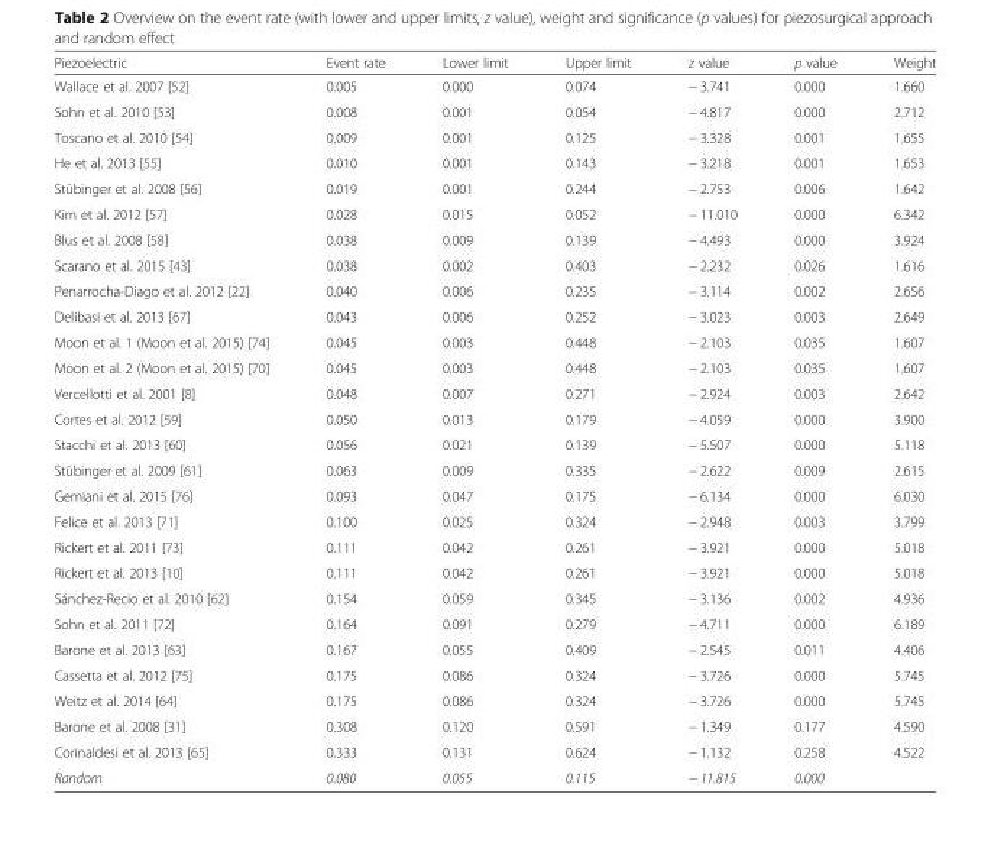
<table><thead><tr><td>Piezoelectric</td><td>Event rate</td><td>Lower limit</td><td>Upper limit</td><td>z value</td><td>p value</td><td>Weight</td></tr></thead><tbody><tr><td>Wallace et al. 2007 [52]</td><td>0.005</td><td>0.000</td><td>0.074</td><td>− 3.741</td><td>0.000</td><td>1.660</td></tr><tr><td>Sohn et al. 2010 [53]</td><td>0.008</td><td>0.001</td><td>0.054</td><td>− 4.817</td><td>0.000</td><td>2.712</td></tr><tr><td>Toscano et al. 2010 [54]</td><td>0.009</td><td>0.001</td><td>0.125</td><td>− 3.328</td><td>0.001</td><td>1.655</td></tr><tr><td>He et al. 2013 [55]</td><td>0.010</td><td>0.001</td><td>0.143</td><td>− 3.218</td><td>0.001</td><td>1.653</td></tr><tr><td>Stübinger et al. 2008 [56]</td><td>0.019</td><td>0.001</td><td>0.244</td><td>− 2.753</td><td>0.006</td><td>1.642</td></tr><tr><td>Kim et al. 2012 [57]</td><td>0.028</td><td>0.015</td><td>0.052</td><td>− 11.010</td><td>0.000</td><td>6.342</td></tr><tr><td>Blus et al. 2008 [58]</td><td>0.038</td><td>0.009</td><td>0.139</td><td>− 4.493</td><td>0.000</td><td>3.924</td></tr><tr><td>Scarano et al. 2015 [43]</td><td>0.038</td><td>0.002</td><td>0.403</td><td>− 2.232</td><td>0.026</td><td>1.616</td></tr><tr><td>Penarrocha-Diago et al. 2012 [22]</td><td>0.040</td><td>0.006</td><td>0.235</td><td>− 3.114</td><td>0.002</td><td>2.656</td></tr><tr><td>Delibasi et al. 2013 [67]</td><td>0.043</td><td>0.006</td><td>0.252</td><td>− 3.023</td><td>0.003</td><td>2.649</td></tr><tr><td>Moon et al. 1 (Moon et al. 2015) [74]</td><td>0.045</td><td>0.003</td><td>0.448</td><td>− 2.103</td><td>0.035</td><td>1.607</td></tr><tr><td>Moon et al. 2 (Moon et al. 2015) [70]</td><td>0.045</td><td>0.003</td><td>0.448</td><td>− 2.103</td><td>0.035</td><td>1.607</td></tr><tr><td>Vercellotti et al. 2001 [8]</td><td>0.048</td><td>0.007</td><td>0.271</td><td>− 2.924</td><td>0.003</td><td>2.642</td></tr><tr><td>Cortes et al. 2012 [59]</td><td>0.050</td><td>0.013</td><td>0.179</td><td>− 4.059</td><td>0.000</td><td>3.900</td></tr><tr><td>Stacchi et al. 2013 [60]</td><td>0.056</td><td>0.021</td><td>0.139</td><td>− 5.507</td><td>0.000</td><td>5.118</td></tr><tr><td>Stübinger et al. 2009 [61]</td><td>0.063</td><td>0.009</td><td>0.335</td><td>− 2.622</td><td>0.009</td><td>2.615</td></tr><tr><td>Gemiani et al. 2015 [76]</td><td>0.093</td><td>0.047</td><td>0.175</td><td>− 6.134</td><td>0.000</td><td>6.030</td></tr><tr><td>Felice et al. 2013 [71]</td><td>0.100</td><td>0.025</td><td>0.324</td><td>− 2.948</td><td>0.003</td><td>3.799</td></tr><tr><td>Rickert et al. 2011 [73]</td><td>0.111</td><td>0.042</td><td>0.261</td><td>− 3.921</td><td>0.000</td><td>5.018</td></tr><tr><td>Rickert et al. 2013 [10]</td><td>0.111</td><td>0.042</td><td>0.261</td><td>− 3.921</td><td>0.000</td><td>5.018</td></tr><tr><td>Sánchez-Recio et al. 2010 [62]</td><td>0.154</td><td>0.059</td><td>0.345</td><td>− 3.136</td><td>0.002</td><td>4.936</td></tr><tr><td>Sohn et al. 2011 [72]</td><td>0.164</td><td>0.091</td><td>0.279</td><td>− 4.711</td><td>0.000</td><td>6.189</td></tr><tr><td>Barone et al. 2013 [63]</td><td>0.167</td><td>0.055</td><td>0.409</td><td>− 2.545</td><td>0.011</td><td>4.406</td></tr><tr><td>Cassetta et al. 2012 [75]</td><td>0.175</td><td>0.086</td><td>0.324</td><td>− 3.726</td><td>0.000</td><td>5.745</td></tr><tr><td>Weitz et al. 2014 [64]</td><td>0.175</td><td>0.086</td><td>0.324</td><td>− 3.726</td><td>0.000</td><td>5.745</td></tr><tr><td>Barone et al. 2008 [31]</td><td>0.308</td><td>0.120</td><td>0.591</td><td>− 1.349</td><td>0.177</td><td>4.590</td></tr><tr><td>Corinaldesi et al. 2013 [65]</td><td>0.333</td><td>0.131</td><td>0.624</td><td>− 1.132</td><td>0.258</td><td>4.522</td></tr><tr><td>Random</td><td>0.080</td><td>0.055</td><td>0.115</td><td>− 11.815</td><td>0.000</td><td></td></tr></tbody></table>